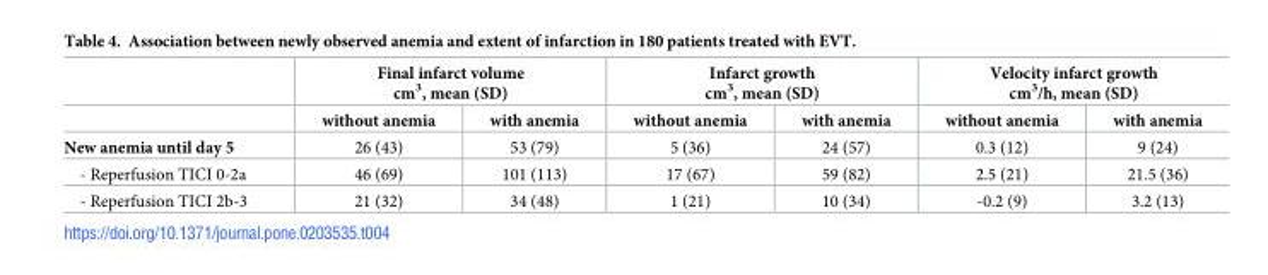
<table><thead><tr><td rowspan="2"></td><td colspan="2">Final infarct volume cm<sup>3</sup>, mean (SD)</td><td colspan="2">Infarct growth cm<sup>3</sup>, mean (SD)</td><td colspan="2">Velocity infarct growth cm<sup>3</sup>/h, mean (SD)</td></tr><tr><td>without anemia</td><td>with anemia</td><td>without anemia</td><td>with anemia</td><td>without anemia</td><td>with anemia</td></tr></thead><tbody><tr><td>New anemia until day 5</td><td>26 (43)</td><td>53 (79)</td><td>5 (36)</td><td>24 (57)</td><td>0.3 (12)</td><td>9 (24)</td></tr><tr><td>- Reperfusion TICI 0-2a</td><td>46 (69)</td><td>101 (113)</td><td>17 (67)</td><td>59 (82)</td><td>2.5 (21)</td><td>21.5 (36)</td></tr><tr><td>- Reperfusion TICI 2b-3</td><td>21 (32)</td><td>34 (48)</td><td>1 (21)</td><td>10 (34)</td><td>-0.2 (9)</td><td>3.2 (13)</td></tr></tbody></table>